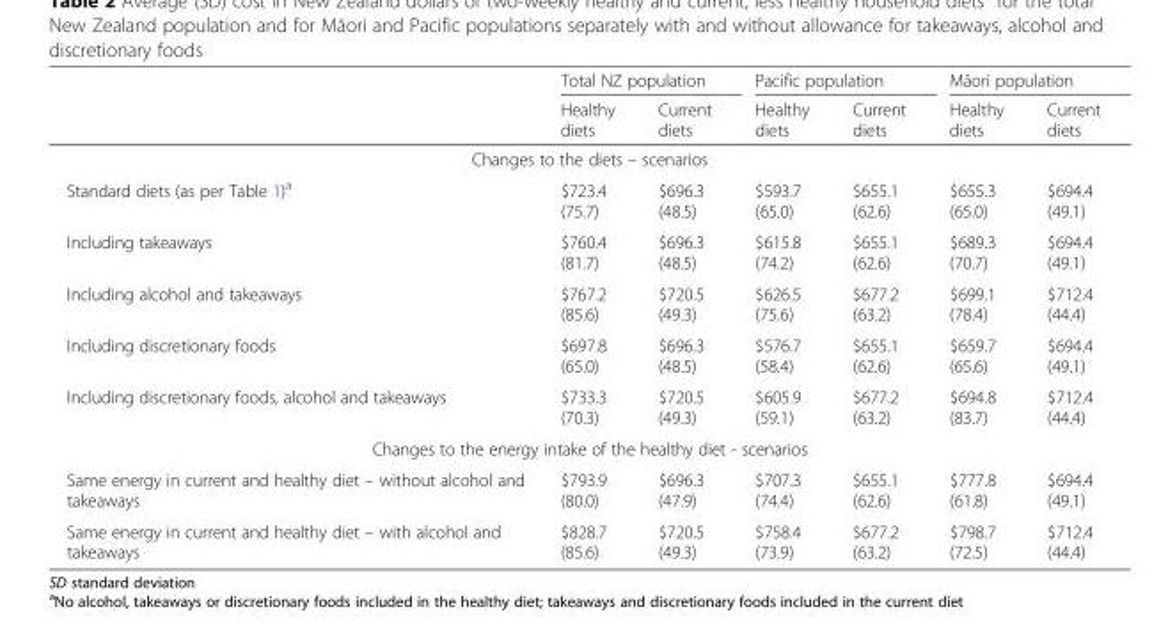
<table><thead><tr><td rowspan="2"></td><td colspan="2">Total NZ population</td><td colspan="2">Pacific population</td><td colspan="2">Māori population</td></tr><tr><td>Healthy diets</td><td>Current diets</td><td>Healthy diets</td><td>Current diets</td><td>Healthy diets</td><td>Current diets</td></tr></thead><tbody><tr><td colspan="7">Changes to the diets – scenarios</td></tr><tr><td>Standard diets (as per Table 1)<sup>a</sup></td><td>$723.4 (75.7)</td><td>$696.3 (48.5)</td><td>$593.7 (65.0)</td><td>$655.1 (62.6)</td><td>$655.3 (65.0)</td><td>$694.4 (49.1)</td></tr><tr><td>Including takeaways</td><td>$760.4 (81.7)</td><td>$696.3 (48.5)</td><td>$615.8 (74.2)</td><td>$655.1 (62.6)</td><td>$689.3 (70.7)</td><td>$694.4 (49.1)</td></tr><tr><td>Including alcohol and takeaways</td><td>$767.2 (85.6)</td><td>$720.5 (49.3)</td><td>$626.5 (75.6)</td><td>$677.2 (63.2)</td><td>$699.1 (78.4)</td><td>$712.4 (44.4)</td></tr><tr><td>Including discretionary foods</td><td>$697.8 (65.0)</td><td>$696.3 (48.5)</td><td>$576.7 (58.4)</td><td>$655.1 (62.6)</td><td>$659.7 (65.6)</td><td>$694.4 (49.1)</td></tr><tr><td>Including discretionary foods, alcohol and takeaways</td><td>$733.3 (70.3)</td><td>$720.5 (49.3)</td><td>$605.9 (59.1)</td><td>$677.2 (63.2)</td><td>$694.8 (83.7)</td><td>$712.4 (44.4)</td></tr><tr><td colspan="7">Changes to the energy intake of the healthy diet - scenarios</td></tr><tr><td>Same energy in current and healthy diet – without alcohol and takeaways</td><td>$793.9 (80.0)</td><td>$696.3 (47.9)</td><td>$707.3 (74.4)</td><td>$655.1 (62.6)</td><td>$777.8 (61.8)</td><td>$694.4 (49.1)</td></tr><tr><td>Same energy in current and healthy diet – with alcohol and takeaways</td><td>$828.7 (85.6)</td><td>$720.5 (49.3)</td><td>$758.4 (73.9)</td><td>$677.2 (63.2)</td><td>$798.7 (72.5)</td><td>$712.4 (44.4)</td></tr></tbody></table>